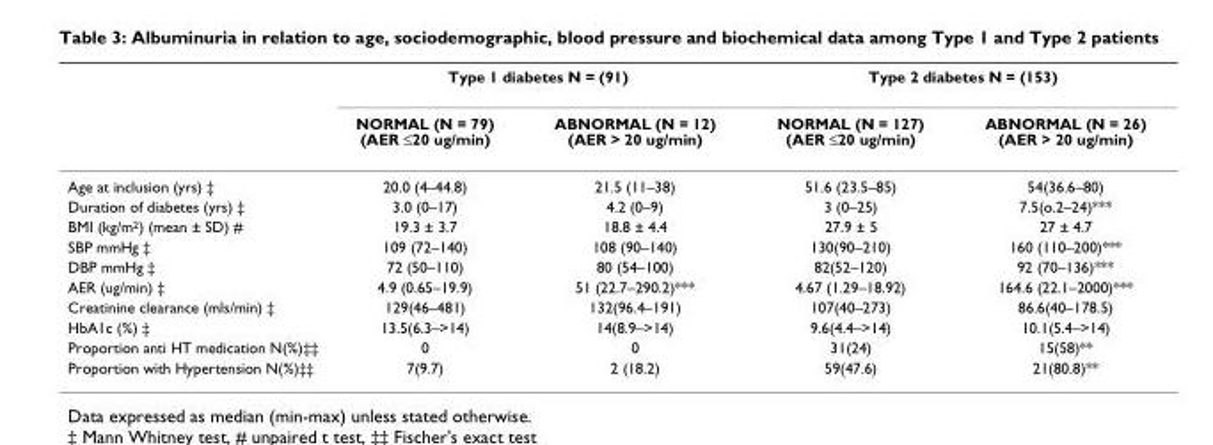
<table><thead><tr><td rowspan="2"></td><td colspan="2">Type 1 diabetes N = (91)</td><td colspan="2">Type 2 diabetes N = (153)</td></tr><tr><td>NORMAL (N = 79) (AER ≤20 ug/min)</td><td>ABNORMAL (N = 12) (AER &gt; 20 ug/min)</td><td>NORMAL (N = 127) (AER ≤20 ug/min)</td><td>ABNORMAL (N = 26) (AER &gt; 20 ug/min)</td></tr></thead><tbody><tr><td>Age at inclusion (yrs) ‡</td><td>20.0 (4–44.8)</td><td>21.5 (11–38)</td><td>51.6 (23.5–85)</td><td>54(36.6–80)</td></tr><tr><td>Duration of diabetes (yrs) ‡</td><td>3.0 (0–17)</td><td>4.2 (0–9)</td><td>3 (0–25)</td><td>7.5(o.2–24)***</td></tr><tr><td>BMI (kg/m<sup>2</sup>) (mean ± SD) #</td><td>19.3 ± 3.7</td><td>18.8 ± 4.4</td><td>27.9 ± 5</td><td>27 ± 4.7</td></tr><tr><td>SBP mmHg ‡</td><td>109 (72–140)</td><td>108 (90–140)</td><td>130(90–210)</td><td>160 (110–200)***</td></tr><tr><td>DBP mmHg ‡</td><td>72 (50–110)</td><td>80 (54–100)</td><td>82(52–120)</td><td>92 (70–136)***</td></tr><tr><td>AER (ug/min) ‡</td><td>4.9 (0.65–19.9)</td><td>51 (22.7–290.2)***</td><td>4.67 (1.29–18.92)</td><td>164.6 (22.1–2000)***</td></tr><tr><td>Creatinine clearance (mls/min) ‡</td><td>129(46–481)</td><td>132(96.4–191)</td><td>107(40–273)</td><td>86.6(40–178.5)</td></tr><tr><td>HbA1c (%) ‡</td><td>13.5(6.3–&gt;14)</td><td>14(8.9–&gt;14)</td><td>9.6(4.4–&gt;14)</td><td>10.1(5.4–&gt;14)</td></tr><tr><td>Proportion anti HT medication N(%)‡‡</td><td>0</td><td>0</td><td>31(24)</td><td>15(58)**</td></tr><tr><td>Proportion with Hypertension N(%)‡‡</td><td>7(9.7)</td><td>2 (18.2)</td><td>59(47.6)</td><td>21(80.8)**</td></tr></tbody></table>